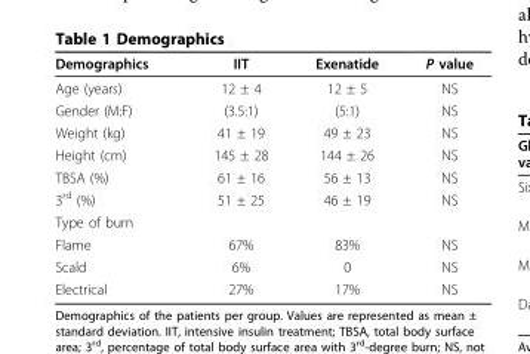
<table><thead><tr><td>Demographics</td><td>IIT</td><td>Exenatide</td><td>P value</td></tr></thead><tbody><tr><td>Age (years)</td><td>12 ± 4</td><td>12 ± 5</td><td>NS</td></tr><tr><td>Gender (M:F)</td><td>(3.5:1)</td><td>(5:1)</td><td>NS</td></tr><tr><td>Weight (kg)</td><td>41 ± 19</td><td>49 ± 23</td><td>NS</td></tr><tr><td>Height (cm)</td><td>145 ± 28</td><td>144 ± 26</td><td>NS</td></tr><tr><td>TBSA (%)</td><td>61 ± 16</td><td>56 ± 13</td><td>NS</td></tr><tr><td>3<sup>rd</sup> (%)</td><td>51 ± 25</td><td>46 ± 19</td><td>NS</td></tr><tr><td colspan="4">Type of burn</td></tr><tr><td>Flame</td><td>67%</td><td>83%</td><td>NS</td></tr><tr><td>Scald</td><td>6%</td><td>0</td><td>NS</td></tr><tr><td>Electrical</td><td>27%</td><td>17%</td><td>NS</td></tr></tbody></table>